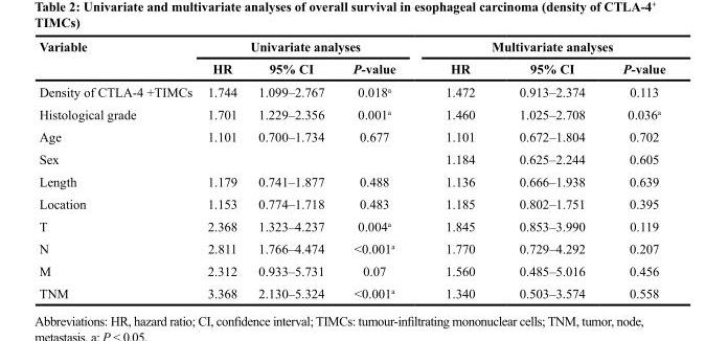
<table><thead><tr><td rowspan="2">Variable</td><td colspan="3">Univariate analyses</td><td colspan="3">Multivariate analyses</td></tr><tr><td>HR</td><td>95% CI</td><td>P-value</td><td>HR</td><td>95% CI</td><td>P-value</td></tr></thead><tbody><tr><td>Density of CTLA-4 +TIMCs</td><td>1.744</td><td>1.099–2.767</td><td>0.018<sup>a</sup></td><td>1.472</td><td>0.913–2.374</td><td>0.113</td></tr><tr><td>Histological grade</td><td>1.701</td><td>1.229–2.356</td><td>0.001<sup>a</sup></td><td>1.460</td><td>1.025–2.708</td><td>0.036<sup>a</sup></td></tr><tr><td>Age</td><td>1.101</td><td>0.700–1.734</td><td>0.677</td><td>1.101</td><td>0.672–1.804</td><td>0.702</td></tr><tr><td>Sex</td><td></td><td></td><td></td><td>1.184</td><td>0.625–2.244</td><td>0.605</td></tr><tr><td>Length</td><td>1.179</td><td>0.741–1.877</td><td>0.488</td><td>1.136</td><td>0.666–1.938</td><td>0.639</td></tr><tr><td>Location</td><td>1.153</td><td>0.774–1.718</td><td>0.483</td><td>1.185</td><td>0.802–1.751</td><td>0.395</td></tr><tr><td>T</td><td>2.368</td><td>1.323–4.237</td><td>0.004<sup>a</sup></td><td>1.845</td><td>0.853–3.990</td><td>0.119</td></tr><tr><td>N</td><td>2.811</td><td>1.766–4.474</td><td>&lt;0.001<sup>a</sup></td><td>1.770</td><td>0.729–4.292</td><td>0.207</td></tr><tr><td>M</td><td>2.312</td><td>0.933–5.731</td><td>0.07</td><td>1.560</td><td>0.485–5.016</td><td>0.456</td></tr><tr><td>TNM</td><td>3.368</td><td>2.130–5.324</td><td>&lt;0.001<sup>a</sup></td><td>1.340</td><td>0.503–3.574</td><td>0.558</td></tr></tbody></table>